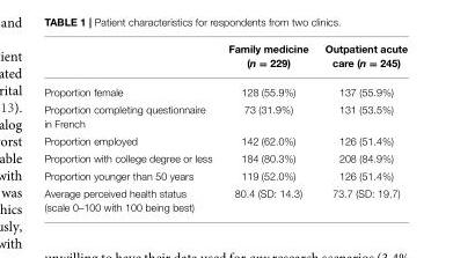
<table><thead><tr><td></td><td>Family medicine (n = 229)</td><td>Outpatient acute care (n = 245)</td></tr></thead><tbody><tr><td>Proportion female</td><td>128 (55.9%)</td><td>137 (55.9%)</td></tr><tr><td>Proportion completing questionnaire in French</td><td>73 (31.9%)</td><td>131 (53.5%)</td></tr><tr><td>Proportion employed</td><td>142 (62.0%)</td><td>126 (51.4%)</td></tr><tr><td>Proportion with college degree or less</td><td>184 (80.3%)</td><td>208 (84.9%)</td></tr><tr><td>Proportion younger than 50 years</td><td>119 (52.0%)</td><td>126 (51.4%)</td></tr><tr><td>Average perceived health status (scale 0–100 with 100 being best)</td><td>80.4 (SD: 14.3)</td><td>73.7 (SD: 19.7)</td></tr></tbody></table>